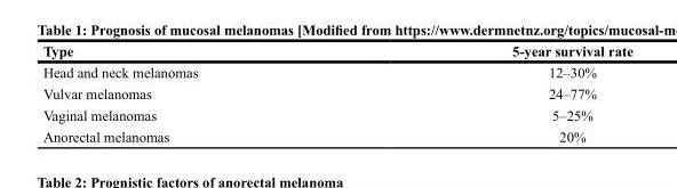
<table><thead><tr><td>Type</td><td>5-year survival rate</td></tr></thead><tbody><tr><td>Head and neck melanomas</td><td>12–30%</td></tr><tr><td>Vulvar melanomas</td><td>24–77%</td></tr><tr><td>Vaginal melanomas</td><td>5–25%</td></tr><tr><td>Anorectal melanomas</td><td>20%</td></tr></tbody></table>